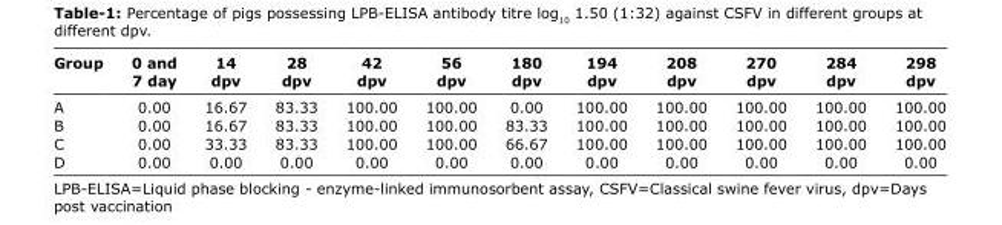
<table><thead><tr><td>Group</td><td>0 and 7 day</td><td>14 dpv</td><td>28 dpv</td><td>42 dpv</td><td>56 dpv</td><td>180 dpv</td><td>194 dpv</td><td>208 dpv</td><td>270 dpv</td><td>284 dpv</td><td>298 dpv</td></tr></thead><tbody><tr><td>A</td><td>0.00</td><td>16.67</td><td>83.33</td><td>100.00</td><td>100.00</td><td>0.00</td><td>100.00</td><td>100.00</td><td>100.00</td><td>100.00</td><td>100.00</td></tr><tr><td>B</td><td>0.00</td><td>16.67</td><td>83.33</td><td>100.00</td><td>100.00</td><td>83.33</td><td>100.00</td><td>100.00</td><td>100.00</td><td>100.00</td><td>100.00</td></tr><tr><td>C</td><td>0.00</td><td>33.33</td><td>83.33</td><td>100.00</td><td>100.00</td><td>66.67</td><td>100.00</td><td>100.00</td><td>100.00</td><td>100.00</td><td>100.00</td></tr><tr><td>D</td><td>0.00</td><td>0.00</td><td>0.00</td><td>0.00</td><td>0.00</td><td>0.00</td><td>0.00</td><td>0.00</td><td>0.00</td><td>0.00</td><td>0.00</td></tr></tbody></table>